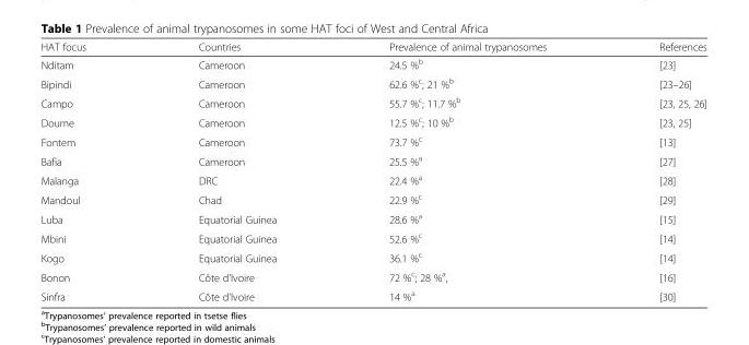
<table><thead><tr><td>HAT focus</td><td>Countries</td><td>Prevalence of animal trypanosomes</td><td>References</td></tr></thead><tbody><tr><td>Nditam</td><td>Cameroon</td><td>24.5 %<sup>b</sup></td><td>[23]</td></tr><tr><td>Bipindi</td><td>Cameroon</td><td>62.6 %<sup>c</sup>; 21 %<sup>b</sup></td><td>[23–26]</td></tr><tr><td>Campo</td><td>Cameroon</td><td>55.7 %<sup>c</sup>; 11.7 %<sup>b</sup></td><td>[23, 25, 26]</td></tr><tr><td>Doume</td><td>Cameroon</td><td>12.5 %<sup>c</sup>; 10 %<sup>b</sup></td><td>[23, 25]</td></tr><tr><td>Fontem</td><td>Cameroon</td><td>73.7 %<sup>c</sup></td><td>[13]</td></tr><tr><td>Bafia</td><td>Cameroon</td><td>25.5 %<sup>a</sup></td><td>[27]</td></tr><tr><td>Malanga</td><td>DRC</td><td>22.4 %<sup>a</sup></td><td>[28]</td></tr><tr><td>Mandoul</td><td>Chad</td><td>22.9 %<sup>c</sup></td><td>[29]</td></tr><tr><td>Luba</td><td>Equatorial Guinea</td><td>28.6 %<sup>a</sup></td><td>[15]</td></tr><tr><td>Mbini</td><td>Equatorial Guinea</td><td>52.6 %<sup>c</sup></td><td>[14]</td></tr><tr><td>Kogo</td><td>Equatorial Guinea</td><td>36.1 %<sup>c</sup></td><td>[14]</td></tr><tr><td>Bonon</td><td>Côte d’Ivoire</td><td>72 %<sup>c</sup>; 28 %<sup>a</sup>,</td><td>[16]</td></tr><tr><td>Sinfra</td><td>Côte d’Ivoire</td><td>14 %<sup>a</sup></td><td>[30]</td></tr></tbody></table>